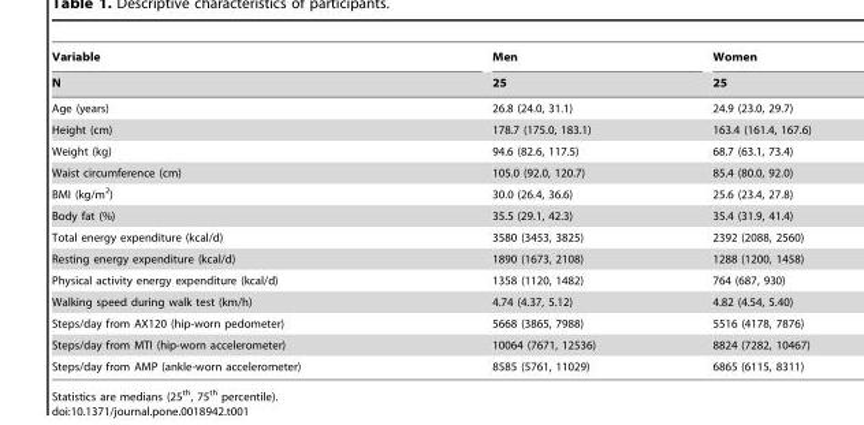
<table><thead><tr><td rowspan="2">Variable N</td><td rowspan="2">Men 25</td><td rowspan="2">Women 25</td></tr><tr></tr></thead><tbody><tr><td>Age (years)</td><td>26.8 (24.0, 31.1)</td><td>24.9 (23.0, 29.7)</td></tr><tr><td>Height (cm)</td><td>178.7 (175.0, 183.1)</td><td>163.4 (161.4, 167.6)</td></tr><tr><td>Weight (kg)</td><td>94.6 (82.6, 117.5)</td><td>68.7 (63.1, 73.4)</td></tr><tr><td>Waist circumference (cm)</td><td>105.0 (92.0, 120.7)</td><td>85.4 (80.0, 92.0)</td></tr><tr><td>BMI (kg/m<sup>2</sup>)</td><td>30.0 (26.4, 36.6)</td><td>25.6 (23.4, 27.8)</td></tr><tr><td>Body fat (%)</td><td>35.5 (29.1, 42.3)</td><td>35.4 (31.9, 41.4)</td></tr><tr><td>Total energy expenditure (kcal/d)</td><td>3580 (3453, 3825)</td><td>2392 (2088, 2560)</td></tr><tr><td>Resting energy expenditure (kcal/d)</td><td>1890 (1673, 2108)</td><td>1288 (1200, 1458)</td></tr><tr><td>Physical activity energy expenditure (kcal/d)</td><td>1358 (1120, 1482)</td><td>764 (687, 930)</td></tr><tr><td>Walking speed during walk test (km/h)</td><td>4.74 (4.37, 5.12)</td><td>4.82 (4.54, 5.40)</td></tr><tr><td>Steps/day from AX120 (hip-worn pedometer)</td><td>5668 (3865, 7988)</td><td>5516 (4178, 7876)</td></tr><tr><td>Steps/day from MTI (hip-worn accelerometer)</td><td>10064 (7671, 12536)</td><td>8824 (7282, 10467)</td></tr><tr><td>Steps/day from AMP (ankle-worn accelerometer)</td><td>8585 (5761, 11029)</td><td>6865 (6115, 8311)</td></tr></tbody></table>